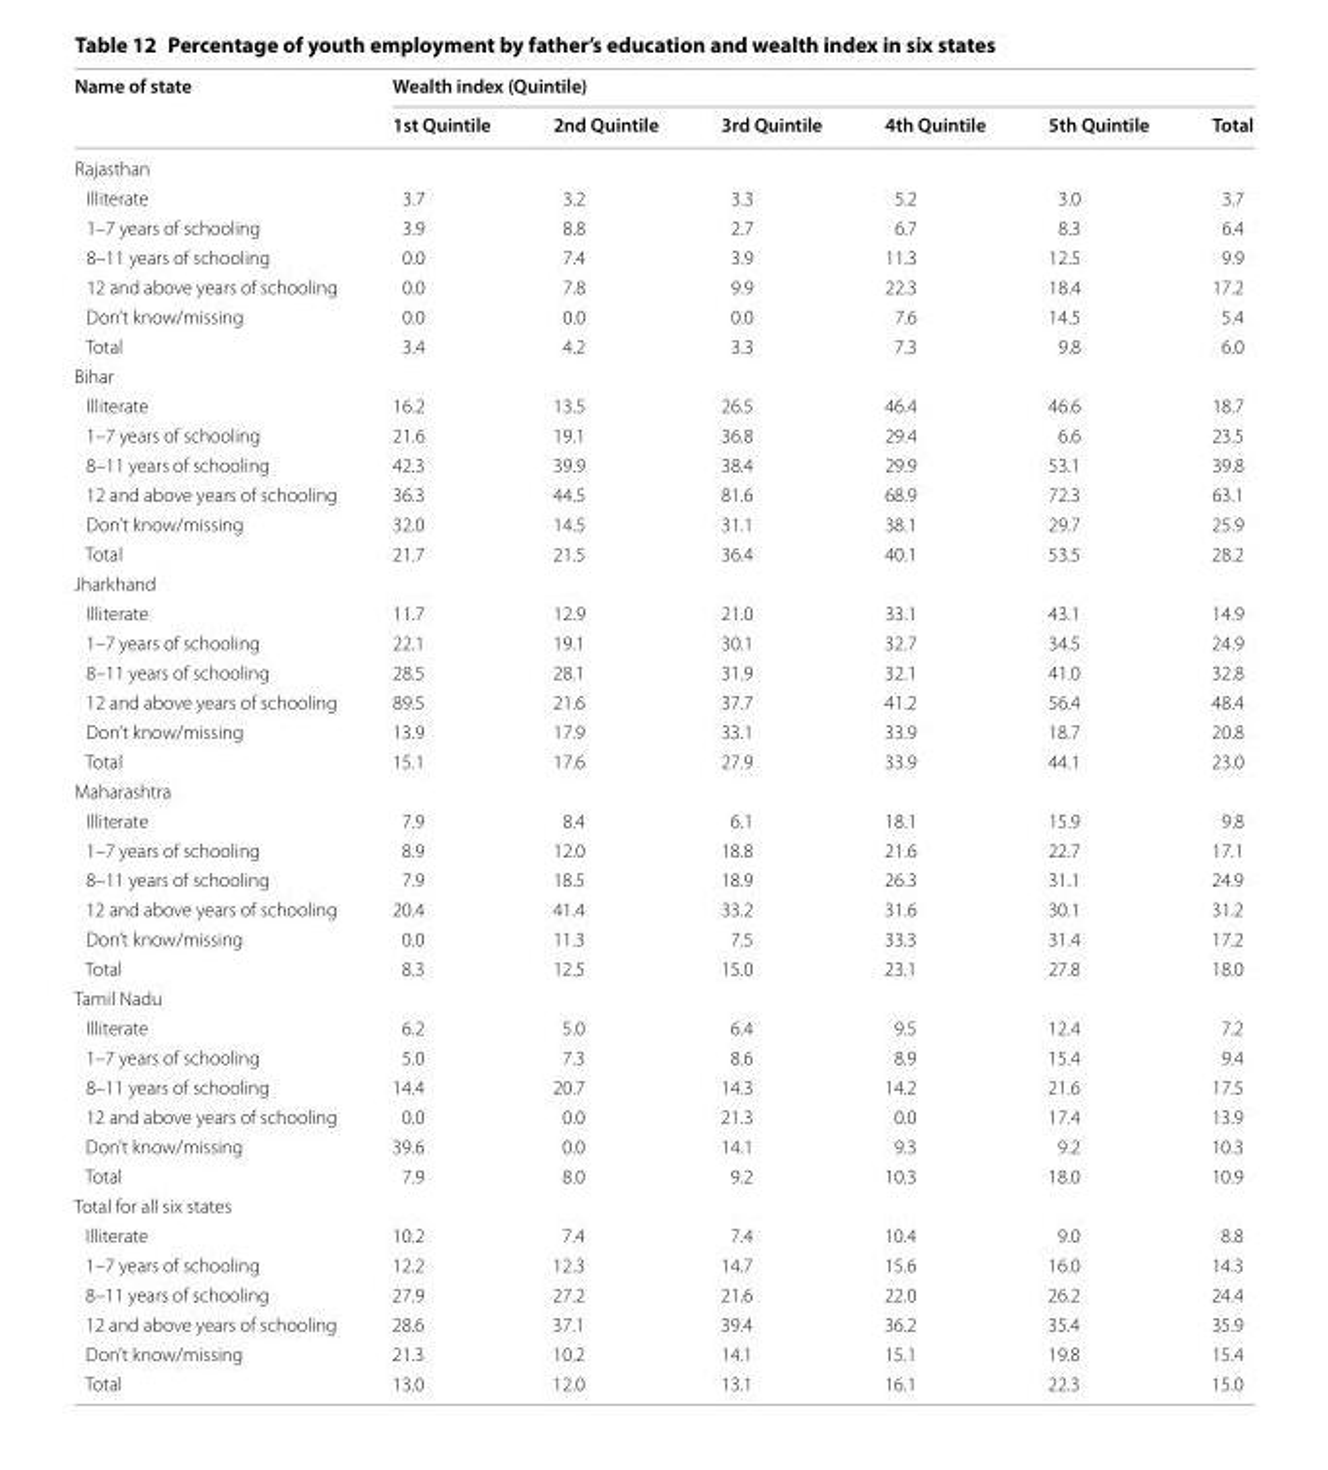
<table><thead><tr><td rowspan="2">Name of state</td><td colspan="6">Wealth index (Quintile)</td></tr><tr><td>1st Quintile</td><td>2nd Quintile</td><td>3rd Quintile</td><td>4th Quintile</td><td>5th Quintile</td><td>Total</td></tr></thead><tbody><tr><td colspan="7">Rajasthan</td></tr><tr><td>Illiterate</td><td>3.7</td><td>3.2</td><td>3.3</td><td>5.2</td><td>3.0</td><td>3.7</td></tr><tr><td>1–7 years of schooling</td><td>3.9</td><td>8.8</td><td>2.7</td><td>6.7</td><td>8.3</td><td>6.4</td></tr><tr><td>8–11 years of schooling</td><td>0.0</td><td>7.4</td><td>3.9</td><td>11.3</td><td>12.5</td><td>9.9</td></tr><tr><td>12 and above years of schooling</td><td>0.0</td><td>7.8</td><td>9.9</td><td>22.3</td><td>18.4</td><td>17.2</td></tr><tr><td>Don’t know/missing</td><td>0.0</td><td>0.0</td><td>0.0</td><td>7.6</td><td>14.5</td><td>5.4</td></tr><tr><td>Total</td><td>3.4</td><td>4.2</td><td>3.3</td><td>7.3</td><td>9.8</td><td>6.0</td></tr><tr><td colspan="7">Bihar</td></tr><tr><td>Illiterate</td><td>16.2</td><td>13.5</td><td>26.5</td><td>46.4</td><td>46.6</td><td>18.7</td></tr><tr><td>1–7 years of schooling</td><td>21.6</td><td>19.1</td><td>36.8</td><td>29.4</td><td>6.6</td><td>23.5</td></tr><tr><td>8–11 years of schooling</td><td>42.3</td><td>39.9</td><td>38.4</td><td>29.9</td><td>53.1</td><td>39.8</td></tr><tr><td>12 and above years of schooling</td><td>36.3</td><td>44.5</td><td>81.6</td><td>68.9</td><td>72.3</td><td>63.1</td></tr><tr><td>Don’t know/missing</td><td>32.0</td><td>14.5</td><td>31.1</td><td>38.1</td><td>29.7</td><td>25.9</td></tr><tr><td>Total</td><td>21.7</td><td>21.5</td><td>36.4</td><td>40.1</td><td>53.5</td><td>28.2</td></tr><tr><td colspan="7">Jharkhand</td></tr><tr><td>Illiterate</td><td>11.7</td><td>12.9</td><td>21.0</td><td>33.1</td><td>43.1</td><td>14.9</td></tr><tr><td>1–7 years of schooling</td><td>22.1</td><td>19.1</td><td>30.1</td><td>32.7</td><td>34.5</td><td>24.9</td></tr><tr><td>8–11 years of schooling</td><td>28.5</td><td>28.1</td><td>31.9</td><td>32.1</td><td>41.0</td><td>32.8</td></tr><tr><td>12 and above years of schooling</td><td>89.5</td><td>21.6</td><td>37.7</td><td>41.2</td><td>56.4</td><td>48.4</td></tr><tr><td>Don’t know/missing</td><td>13.9</td><td>17.9</td><td>33.1</td><td>33.9</td><td>18.7</td><td>20.8</td></tr><tr><td>Total</td><td>15.1</td><td>17.6</td><td>27.9</td><td>33.9</td><td>44.1</td><td>23.0</td></tr><tr><td colspan="7">Maharashtra</td></tr><tr><td>Illiterate</td><td>7.9</td><td>8.4</td><td>6.1</td><td>18.1</td><td>15.9</td><td>9.8</td></tr><tr><td>1–7 years of schooling</td><td>8.9</td><td>12.0</td><td>18.8</td><td>21.6</td><td>22.7</td><td>17.1</td></tr><tr><td>8–11 years of schooling</td><td>7.9</td><td>18.5</td><td>18.9</td><td>26.3</td><td>31.1</td><td>24.9</td></tr><tr><td>12 and above years of schooling</td><td>20.4</td><td>41.4</td><td>33.2</td><td>31.6</td><td>30.1</td><td>31.2</td></tr><tr><td>Don’t know/missing</td><td>0.0</td><td>11.3</td><td>7.5</td><td>33.3</td><td>31.4</td><td>17.2</td></tr><tr><td>Total</td><td>8.3</td><td>12.5</td><td>15.0</td><td>23.1</td><td>27.8</td><td>18.0</td></tr><tr><td colspan="7">Tamil Nadu</td></tr><tr><td>Illiterate</td><td>6.2</td><td>5.0</td><td>6.4</td><td>9.5</td><td>12.4</td><td>7.2</td></tr><tr><td>1–7 years of schooling</td><td>5.0</td><td>7.3</td><td>8.6</td><td>8.9</td><td>15.4</td><td>9.4</td></tr><tr><td>8–11 years of schooling</td><td>14.4</td><td>20.7</td><td>14.3</td><td>14.2</td><td>21.6</td><td>17.5</td></tr><tr><td>12 and above years of schooling</td><td>0.0</td><td>0.0</td><td>21.3</td><td>0.0</td><td>17.4</td><td>13.9</td></tr><tr><td>Don’t know/missing</td><td>39.6</td><td>0.0</td><td>14.1</td><td>9.3</td><td>9.2</td><td>10.3</td></tr><tr><td>Total</td><td>7.9</td><td>8.0</td><td>9.2</td><td>10.3</td><td>18.0</td><td>10.9</td></tr><tr><td colspan="7">Total for all six states</td></tr><tr><td>Illiterate</td><td>10.2</td><td>7.4</td><td>7.4</td><td>10.4</td><td>9.0</td><td>8.8</td></tr><tr><td>1–7 years of schooling</td><td>12.2</td><td>12.3</td><td>14.7</td><td>15.6</td><td>16.0</td><td>14.3</td></tr><tr><td>8–11 years of schooling</td><td>27.9</td><td>27.2</td><td>21.6</td><td>22.0</td><td>26.2</td><td>24.4</td></tr><tr><td>12 and above years of schooling</td><td>28.6</td><td>37.1</td><td>39.4</td><td>36.2</td><td>35.4</td><td>35.9</td></tr><tr><td>Don’t know/missing</td><td>21.3</td><td>10.2</td><td>14.1</td><td>15.1</td><td>19.8</td><td>15.4</td></tr><tr><td>Total</td><td>13.0</td><td>12.0</td><td>13.1</td><td>16.1</td><td>22.3</td><td>15.0</td></tr></tbody></table>